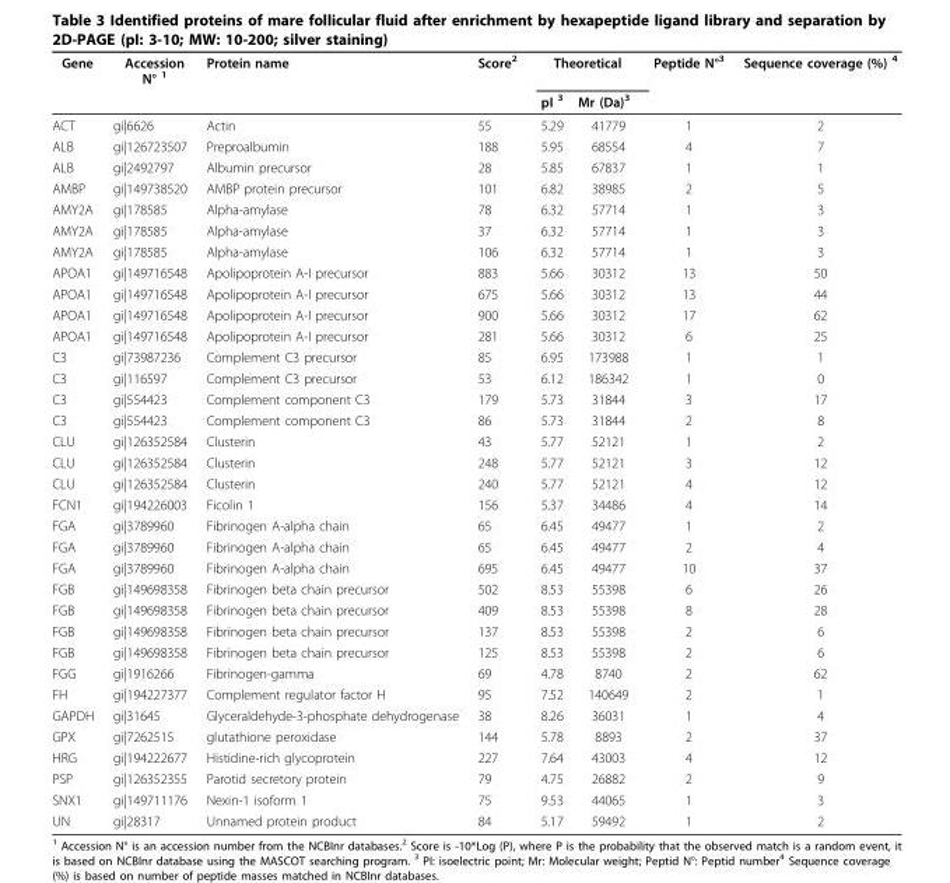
<table><thead><tr><td rowspan="2">Gene</td><td rowspan="2">Accession N° <sup>1</sup></td><td rowspan="2">Protein name</td><td rowspan="2">Score<sup>2</sup></td><td colspan="2">Theoretical</td><td rowspan="2">Peptide N°<sup>3</sup></td><td rowspan="2">Sequence coverage (%) <sup>4</sup></td></tr><tr><td>pI <sup>3</sup></td><td>Mr (Da)<sup>3</sup></td></tr></thead><tbody><tr><td>ACT</td><td>gi|6626</td><td>Actin</td><td>55</td><td>5.29</td><td>41779</td><td>1</td><td>2</td></tr><tr><td>ALB</td><td>gi|126723507</td><td>Preproalbumin</td><td>188</td><td>5.95</td><td>68554</td><td>4</td><td>7</td></tr><tr><td>ALB</td><td>gi|2492797</td><td>Albumin precursor</td><td>28</td><td>5.85</td><td>67837</td><td>1</td><td>1</td></tr><tr><td>AMBP</td><td>gi|149738520</td><td>AMBP protein precursor</td><td>101</td><td>6.82</td><td>38985</td><td>2</td><td>5</td></tr><tr><td>AMY2A</td><td>gi|178585</td><td>Alpha-amylase</td><td>78</td><td>6.32</td><td>57714</td><td>1</td><td>3</td></tr><tr><td>AMY2A</td><td>gi|178585</td><td>Alpha-amylase</td><td>37</td><td>6.32</td><td>57714</td><td>1</td><td>3</td></tr><tr><td>AMY2A</td><td>gi|178585</td><td>Alpha-amylase</td><td>106</td><td>6.32</td><td>57714</td><td>1</td><td>3</td></tr><tr><td>APOA1</td><td>gi|149716548</td><td>Apolipoprotein A-I precursor</td><td>883</td><td>5.66</td><td>30312</td><td>13</td><td>50</td></tr><tr><td>APOA1</td><td>gi|149716548</td><td>Apolipoprotein A-I precursor</td><td>675</td><td>5.66</td><td>30312</td><td>13</td><td>44</td></tr><tr><td>APOA1</td><td>gi|149716548</td><td>Apolipoprotein A-I precursor</td><td>900</td><td>5.66</td><td>30312</td><td>17</td><td>62</td></tr><tr><td>APOA1</td><td>gi|149716548</td><td>Apolipoprotein A-I precursor</td><td>281</td><td>5.66</td><td>30312</td><td>6</td><td>25</td></tr><tr><td>C3</td><td>gi|73987236</td><td>Complement C3 precursor</td><td>85</td><td>6.95</td><td>173988</td><td>1</td><td>1</td></tr><tr><td>C3</td><td>gi|116597</td><td>Complement C3 precursor</td><td>53</td><td>6.12</td><td>186342</td><td>1</td><td>0</td></tr><tr><td>C3</td><td>gi|554423</td><td>Complement component C3</td><td>179</td><td>5.73</td><td>31844</td><td>3</td><td>17</td></tr><tr><td>C3</td><td>gi|554423</td><td>Complement component C3</td><td>86</td><td>5.73</td><td>31844</td><td>2</td><td>8</td></tr><tr><td>CLU</td><td>gi|126352584</td><td>Clusterin</td><td>43</td><td>5.77</td><td>52121</td><td>1</td><td>2</td></tr><tr><td>CLU</td><td>gi|126352584</td><td>Clusterin</td><td>248</td><td>5.77</td><td>52121</td><td>3</td><td>12</td></tr><tr><td>CLU</td><td>gi|126352584</td><td>Clusterin</td><td>240</td><td>5.77</td><td>52121</td><td>4</td><td>12</td></tr><tr><td>FCN1</td><td>gi|194226003</td><td>Ficolin 1</td><td>156</td><td>5.37</td><td>34486</td><td>4</td><td>14</td></tr><tr><td>FGA</td><td>gi|3789960</td><td>Fibrinogen A-alpha chain</td><td>65</td><td>6.45</td><td>49477</td><td>1</td><td>2</td></tr><tr><td>FGA</td><td>gi|3789960</td><td>Fibrinogen A-alpha chain</td><td>65</td><td>6.45</td><td>49477</td><td>2</td><td>4</td></tr><tr><td>FGA</td><td>gi|3789960</td><td>Fibrinogen A-alpha chain</td><td>695</td><td>6.45</td><td>49477</td><td>10</td><td>37</td></tr><tr><td>FGB</td><td>gi|149698358</td><td>Fibrinogen beta chain precursor</td><td>502</td><td>8.53</td><td>55398</td><td>6</td><td>26</td></tr><tr><td>FGB</td><td>gi|149698358</td><td>Fibrinogen beta chain precursor</td><td>409</td><td>8.53</td><td>55398</td><td>8</td><td>28</td></tr><tr><td>FGB</td><td>gi|149698358</td><td>Fibrinogen beta chain precursor</td><td>137</td><td>8.53</td><td>55398</td><td>2</td><td>6</td></tr><tr><td>FGB</td><td>gi|149698358</td><td>Fibrinogen beta chain precursor</td><td>125</td><td>8.53</td><td>55398</td><td>2</td><td>6</td></tr><tr><td>FGG</td><td>gi|1916266</td><td>Fibrinogen-gamma</td><td>69</td><td>4.78</td><td>8740</td><td>2</td><td>62</td></tr><tr><td>FH</td><td>gi|194227377</td><td>Complement regulator factor H</td><td>95</td><td>7.52</td><td>140649</td><td>2</td><td>1</td></tr><tr><td>GAPDH</td><td>gi|31645</td><td>Glyceraldehyde-3-phosphate dehydrogenase</td><td>38</td><td>8.26</td><td>36031</td><td>1</td><td>4</td></tr><tr><td>GPX</td><td>gi|7262515</td><td>glutathione peroxidase</td><td>144</td><td>5.78</td><td>8893</td><td>2</td><td>37</td></tr><tr><td>HRG</td><td>gi|194222677</td><td>Histidine-rich glycoprotein</td><td>227</td><td>7.64</td><td>43003</td><td>4</td><td>12</td></tr><tr><td>PSP</td><td>gi|126352355</td><td>Parotid secretory protein</td><td>79</td><td>4.75</td><td>26882</td><td>2</td><td>9</td></tr><tr><td>SNX1</td><td>gi|149711176</td><td>Nexin-1 isoform 1</td><td>75</td><td>9.53</td><td>44065</td><td>1</td><td>3</td></tr><tr><td>UN</td><td>gi|28317</td><td>Unnamed protein product</td><td>84</td><td>5.17</td><td>59492</td><td>1</td><td>2</td></tr></tbody></table>